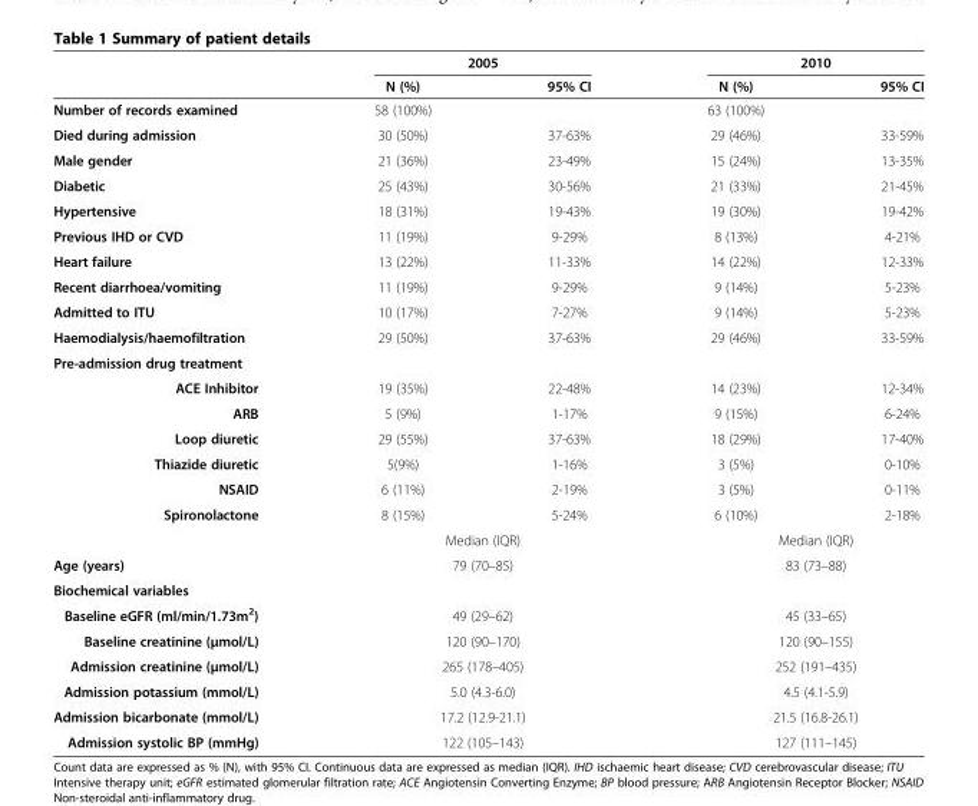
<table><thead><tr><td rowspan="2"></td><td colspan="2">2005</td><td colspan="2">2010</td></tr><tr><td>N (%)</td><td>95% CI</td><td>N (%)</td><td>95% CI</td></tr></thead><tbody><tr><td>Number of records examined</td><td>58 (100%)</td><td></td><td>63 (100%)</td><td></td></tr><tr><td>Died during admission</td><td>30 (50%)</td><td>37-63%</td><td>29 (46%)</td><td>33-59%</td></tr><tr><td>Male gender</td><td>21 (36%)</td><td>23-49%</td><td>15 (24%)</td><td>13-35%</td></tr><tr><td>Diabetic</td><td>25 (43%)</td><td>30-56%</td><td>21 (33%)</td><td>21-45%</td></tr><tr><td>Hypertensive</td><td>18 (31%)</td><td>19-43%</td><td>19 (30%)</td><td>19-42%</td></tr><tr><td>Previous IHD or CVD</td><td>11 (19%)</td><td>9-29%</td><td>8 (13%)</td><td>4-21%</td></tr><tr><td>Heart failure</td><td>13 (22%)</td><td>11-33%</td><td>14 (22%)</td><td>12-33%</td></tr><tr><td>Recent diarrhoea/vomiting</td><td>11 (19%)</td><td>9-29%</td><td>9 (14%)</td><td>5-23%</td></tr><tr><td>Admitted to ITU</td><td>10 (17%)</td><td>7-27%</td><td>9 (14%)</td><td>5-23%</td></tr><tr><td>Haemodialysis/haemofiltration</td><td>29 (50%)</td><td>37-63%</td><td>29 (46%)</td><td>33-59%</td></tr><tr><td colspan="5">Pre-admission drug treatment</td></tr><tr><td>ACE Inhibitor</td><td>19 (35%)</td><td>22-48%</td><td>14 (23%)</td><td>12-34%</td></tr><tr><td>ARB</td><td>5 (9%)</td><td>1-17%</td><td>9 (15%)</td><td>6-24%</td></tr><tr><td>Loop diuretic</td><td>29 (55%)</td><td>37-63%</td><td>18 (29%)</td><td>17-40%</td></tr><tr><td>Thiazide diuretic</td><td>5(9%)</td><td>1-16%</td><td>3 (5%)</td><td>0-10%</td></tr><tr><td>NSAID</td><td>6 (11%)</td><td>2-19%</td><td>3 (5%)</td><td>0-11%</td></tr><tr><td rowspan="2">Spironolactone</td><td>8 (15%)</td><td>5-24%</td><td>6 (10%)</td><td>2-18%</td></tr><tr><td colspan="2">Median (IQR)</td><td colspan="2">Median (IQR)</td></tr><tr><td>Age (years)</td><td colspan="2">79 (70–85)</td><td colspan="2">83 (73–88)</td></tr><tr><td colspan="5">Biochemical variables</td></tr><tr><td>Baseline eGFR (ml/min/1.73m<sup>2</sup>)</td><td colspan="2">49 (29–62)</td><td colspan="2">45 (33–65)</td></tr><tr><td>Baseline creatinine (μmol/L)</td><td colspan="2">120 (90–170)</td><td colspan="2">120 (90–155)</td></tr><tr><td>Admission creatinine (μmol/L)</td><td colspan="2">265 (178–405)</td><td colspan="2">252 (191–435)</td></tr><tr><td>Admission potassium (mmol/L)</td><td colspan="2">5.0 (4.3-6.0)</td><td colspan="2">4.5 (4.1-5.9)</td></tr><tr><td>Admission bicarbonate (mmol/L)</td><td colspan="2">17.2 (12.9-21.1)</td><td colspan="2">21.5 (16.8-26.1)</td></tr><tr><td>Admission systolic BP (mmHg)</td><td colspan="2">122 (105–143)</td><td colspan="2">127 (111–145)</td></tr></tbody></table>